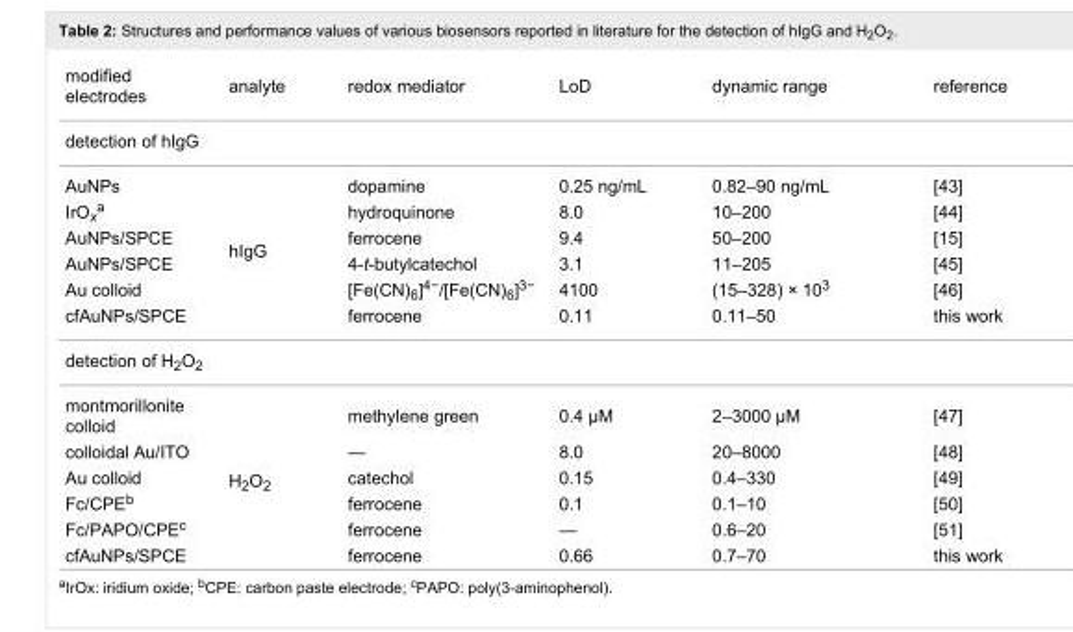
<table><tbody><tr><td>modified electrodes</td><td>analyte</td><td>redox mediator</td><td>LoD</td><td>dynamic range</td><td>reference</td></tr><tr><td colspan="6">detection of hIgG</td></tr><tr><td>AuNPs</td><td rowspan="6">hIgG</td><td>dopamine</td><td>0.25 ng/mL</td><td>0.82–90 ng/mL</td><td>[43]</td></tr><tr><td>IrO<sub>x</sub><sup>a</sup></td><td>hydroquinone</td><td>8.0</td><td>10–200</td><td>[44]</td></tr><tr><td>AuNPs/SPCE</td><td>ferrocene</td><td>9.4</td><td>50–200</td><td>[15]</td></tr><tr><td>AuNPs/SPCE</td><td>4-t-butylcatechol</td><td>3.1</td><td>11–205</td><td>[45]</td></tr><tr><td>Au colloid</td><td>[Fe(CN)<sub>6</sub>]<sup>4−</sup>/[Fe(CN)<sub>6</sub>]<sup>3−</sup></td><td>4100</td><td>(15–328) × 10<sup>3</sup></td><td>[46]</td></tr><tr><td>cfAuNPs/SPCE</td><td>ferrocene</td><td>0.11</td><td>0.11–50</td><td>this work</td></tr><tr><td colspan="6">detection of H<sub>2</sub>O<sub>2</sub></td></tr><tr><td>montmorillonite colloid</td><td rowspan="6">H<sub>2</sub>O<sub>2</sub></td><td>methylene green</td><td>0.4 μM</td><td>2–3000 μM</td><td>[47]</td></tr><tr><td>colloidal Au/ITO</td><td>—</td><td>8.0</td><td>20–8000</td><td>[48]</td></tr><tr><td>Au colloid</td><td>catechol</td><td>0.15</td><td>0.4–330</td><td>[49]</td></tr><tr><td>Fc/CPE<sup>b</sup></td><td>ferrocene</td><td>0.1</td><td>0.1–10</td><td>[50]</td></tr><tr><td>Fc/PAPO/CPE<sup>c</sup></td><td>ferrocene</td><td>—</td><td>0.6–20</td><td>[51]</td></tr><tr><td>cfAuNPs/SPCE</td><td>ferrocene</td><td>0.66</td><td>0.7–70</td><td>this work</td></tr></tbody></table>